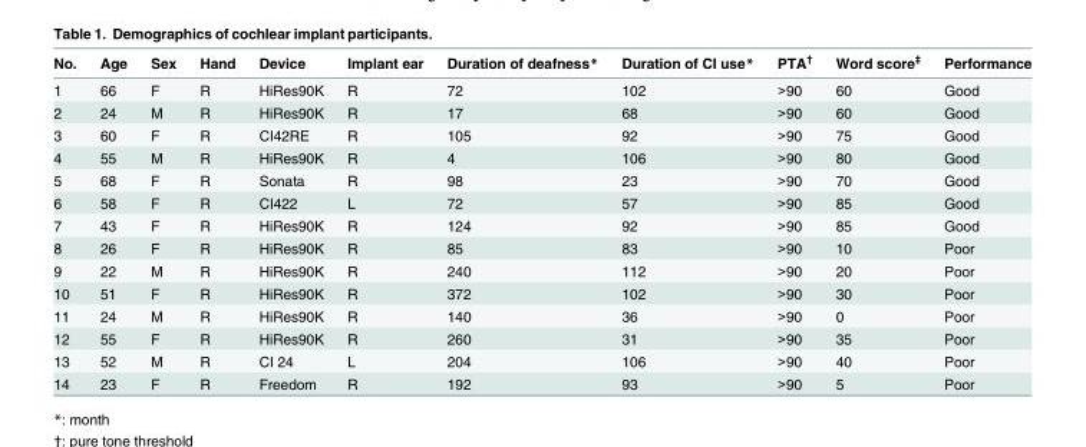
<table><thead><tr><td>No.</td><td>Age</td><td>Sex</td><td>Hand</td><td>Device</td><td>Implant ear</td><td>Duration of deafness*</td><td>Duration of CI use*</td><td>PTA<sup>†</sup></td><td>Word score<sup>‡</sup></td><td>Performance</td></tr></thead><tbody><tr><td>1</td><td>66</td><td>F</td><td>R</td><td>HiRes90K</td><td>R</td><td>72</td><td>102</td><td>&gt;90</td><td>60</td><td>Good</td></tr><tr><td>2</td><td>24</td><td>M</td><td>R</td><td>HiRes90K</td><td>R</td><td>17</td><td>68</td><td>&gt;90</td><td>60</td><td>Good</td></tr><tr><td>3</td><td>60</td><td>F</td><td>R</td><td>CI42RE</td><td>R</td><td>105</td><td>92</td><td>&gt;90</td><td>75</td><td>Good</td></tr><tr><td>4</td><td>55</td><td>M</td><td>R</td><td>HiRes90K</td><td>R</td><td>4</td><td>106</td><td>&gt;90</td><td>80</td><td>Good</td></tr><tr><td>5</td><td>68</td><td>F</td><td>R</td><td>Sonata</td><td>R</td><td>98</td><td>23</td><td>&gt;90</td><td>70</td><td>Good</td></tr><tr><td>6</td><td>58</td><td>F</td><td>R</td><td>CI422</td><td>L</td><td>72</td><td>57</td><td>&gt;90</td><td>85</td><td>Good</td></tr><tr><td>7</td><td>43</td><td>F</td><td>R</td><td>HiRes90K</td><td>R</td><td>124</td><td>92</td><td>&gt;90</td><td>85</td><td>Good</td></tr><tr><td>8</td><td>26</td><td>F</td><td>R</td><td>HiRes90K</td><td>R</td><td>85</td><td>83</td><td>&gt;90</td><td>10</td><td>Poor</td></tr><tr><td>9</td><td>22</td><td>M</td><td>R</td><td>HiRes90K</td><td>R</td><td>240</td><td>112</td><td>&gt;90</td><td>20</td><td>Poor</td></tr><tr><td>10</td><td>51</td><td>F</td><td>R</td><td>HiRes90K</td><td>R</td><td>372</td><td>102</td><td>&gt;90</td><td>30</td><td>Poor</td></tr><tr><td>11</td><td>24</td><td>M</td><td>R</td><td>HiRes90K</td><td>R</td><td>140</td><td>36</td><td>&gt;90</td><td>0</td><td>Poor</td></tr><tr><td>12</td><td>55</td><td>F</td><td>R</td><td>HiRes90K</td><td>R</td><td>260</td><td>31</td><td>&gt;90</td><td>35</td><td>Poor</td></tr><tr><td>13</td><td>52</td><td>M</td><td>R</td><td>CI 24</td><td>L</td><td>204</td><td>106</td><td>&gt;90</td><td>40</td><td>Poor</td></tr><tr><td>14</td><td>23</td><td>F</td><td>R</td><td>Freedom</td><td>R</td><td>192</td><td>93</td><td>&gt;90</td><td>5</td><td>Poor</td></tr></tbody></table>